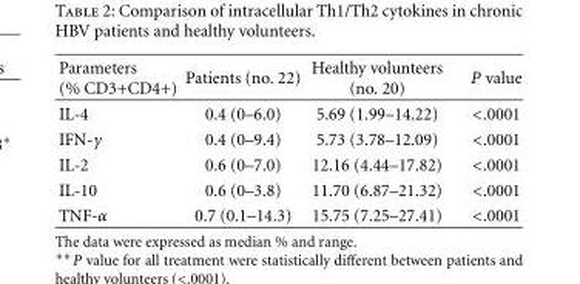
<table><thead><tr><td>Parameters (% CD3+CD4+)</td><td>Patients (no. 22)</td><td>Healthy volunteers (no. 20)</td><td>P value</td></tr></thead><tbody><tr><td>IL-4</td><td>0.4 (0–6.0)</td><td>5.69 (1.99–14.22)</td><td>&lt;.0001</td></tr><tr><td>IFN-γ</td><td>0.4 (0–9.4)</td><td>5.73 (3.78–12.09)</td><td>&lt;.0001</td></tr><tr><td>IL-2</td><td>0.6 (0–7.0)</td><td>12.16 (4.44–17.82)</td><td>&lt;.0001</td></tr><tr><td>IL-10</td><td>0.6 (0–3.8)</td><td>11.70 (6.87–21.32)</td><td>&lt;.0001</td></tr><tr><td>TNF-α</td><td>0.7 (0.1–14.3)</td><td>15.75 (7.25–27.41)</td><td>&lt;.0001</td></tr></tbody></table>